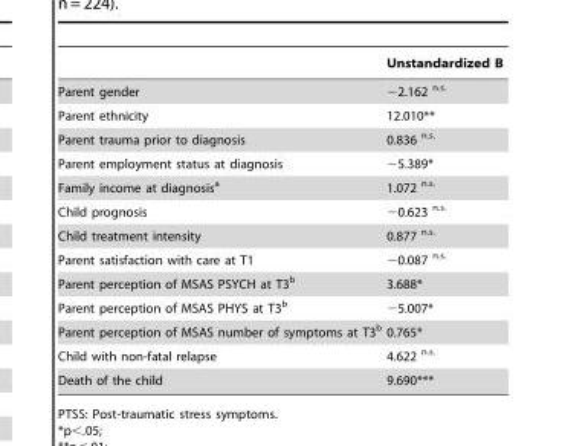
<table><thead><tr><td></td><td>Unstandardized B</td></tr></thead><tbody><tr><td>Parent gender</td><td>−2.162 <sup>n.s.</sup></td></tr><tr><td>Parent ethnicity</td><td>12.010**</td></tr><tr><td>Parent trauma prior to diagnosis</td><td>0.836 <sup>n.s.</sup></td></tr><tr><td>Parent employment status at diagnosis</td><td>−5.389*</td></tr><tr><td>Family income at diagnosis<sup>a</sup></td><td>1.072 <sup>n.s.</sup></td></tr><tr><td>Child prognosis</td><td>−0.623 <sup>n.s.</sup></td></tr><tr><td>Child treatment intensity</td><td>0.877 <sup>n.s.</sup></td></tr><tr><td>Parent satisfaction with care at T1</td><td>−0.087 <sup>n.s.</sup></td></tr><tr><td>Parent perception of MSAS PSYCH at T3<sup>b</sup></td><td>3.688*</td></tr><tr><td>Parent perception of MSAS PHYS at T3<sup>b</sup></td><td>−5.007*</td></tr><tr><td>Parent perception of MSAS number of symptoms at T3<sup>b</sup></td><td>0.765*</td></tr><tr><td>Child with non-fatal relapse</td><td>4.622 <sup>n.s.</sup></td></tr><tr><td>Death of the child</td><td>9.690***</td></tr></tbody></table>